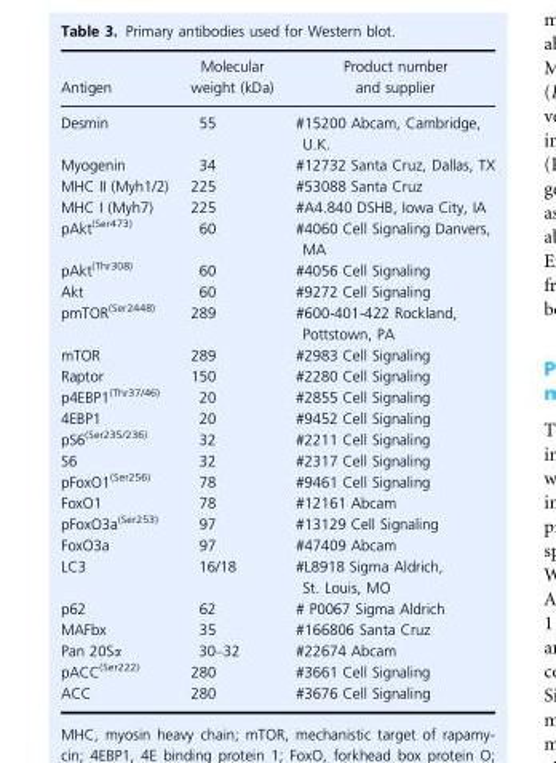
<table><thead><tr><td>Antigen</td><td>Molecular weight (kDa)</td><td>Product number and supplier</td></tr></thead><tbody><tr><td>Desmin</td><td>55</td><td>#15200 Abcam, Cambridge, U.K.</td></tr><tr><td>Myogenin</td><td>34</td><td>#12732 Santa Cruz, Dallas, TX</td></tr><tr><td>MHC II (Myh1/2)</td><td>225</td><td>#53088 Santa Cruz</td></tr><tr><td>MHC I (Myh7)</td><td>225</td><td>#A4.840 DSHB, Iowa City, IA</td></tr><tr><td>pAkt<sup>(Ser473)</sup></td><td>60</td><td>#4060 Cell Signaling Danvers, MA</td></tr><tr><td>pAkt<sup>(Thr308)</sup></td><td>60</td><td>#4056 Cell Signaling</td></tr><tr><td>Akt</td><td>60</td><td>#9272 Cell Signaling</td></tr><tr><td>pmTOR<sup>(Ser2448)</sup></td><td>289</td><td>#600-401-422 Rockland, Pottstown, PA</td></tr><tr><td>mTOR</td><td>289</td><td>#2983 Cell Signaling</td></tr><tr><td>Raptor</td><td>150</td><td>#2280 Cell Signaling</td></tr><tr><td>p4EBP1<sup>(Thr37/46)</sup></td><td>20</td><td>#2855 Cell Signaling</td></tr><tr><td>4EBP1</td><td>20</td><td>#9452 Cell Signaling</td></tr><tr><td>pS6<sup>(Ser235/236)</sup></td><td>32</td><td>#2211 Cell Signaling</td></tr><tr><td>S6</td><td>32</td><td>#2317 Cell Signaling</td></tr><tr><td>pFoxO1<sup>(Ser256)</sup></td><td>78</td><td>#9461 Cell Signaling</td></tr><tr><td>FoxO1</td><td>78</td><td>#12161 Abcam</td></tr><tr><td>pFoxO3a<sup>(Ser253)</sup></td><td>97</td><td>#13129 Cell Signaling</td></tr><tr><td>FoxO3a</td><td>97</td><td>#47409 Abcam</td></tr><tr><td>LC3</td><td>16/18</td><td>#L8918 Sigma Aldrich, St. Louis, MO</td></tr><tr><td>p62</td><td>62</td><td># P0067 Sigma Aldrich</td></tr><tr><td>MAFbx</td><td>35</td><td>#166806 Santa Cruz</td></tr><tr><td>Pan 20Sα</td><td>30–32</td><td>#22674 Abcam</td></tr><tr><td>pACC<sup>(Ser222)</sup></td><td>280</td><td>#3661 Cell Signaling</td></tr><tr><td>ACC</td><td>280</td><td>#3676 Cell Signaling</td></tr></tbody></table>